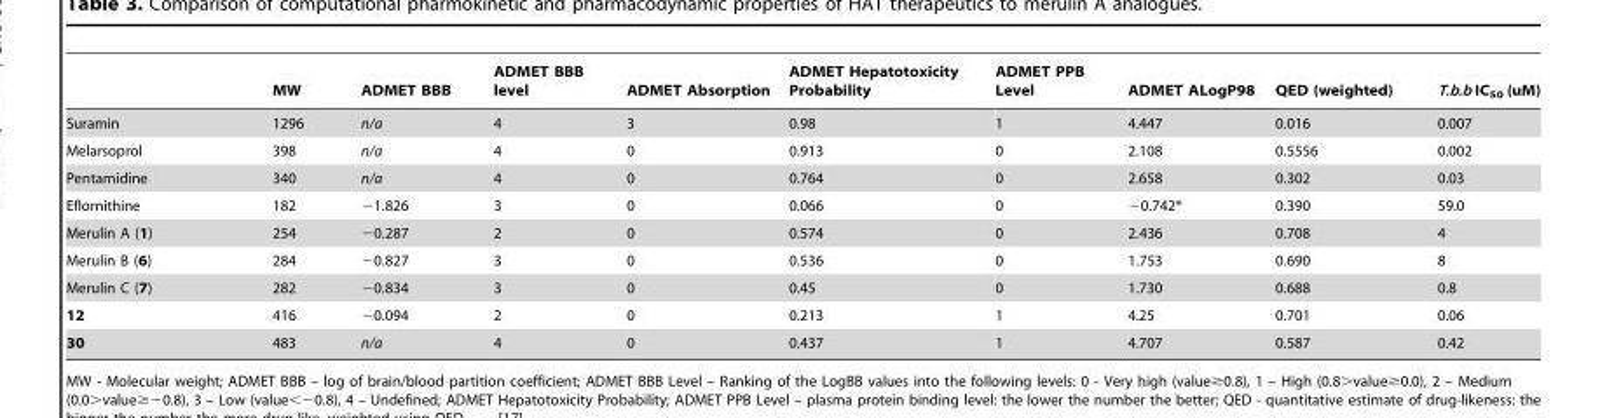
<table><thead><tr><td></td><td>MW</td><td>ADMET BBB</td><td>ADMET BBB level</td><td>ADMET Absorption</td><td>ADMET Hepatotoxicity Probability</td><td>ADMET PPB Level</td><td>ADMET ALogP98</td><td>QED (weighted)</td><td>T.b.b IC<sub>50</sub> (uM)</td></tr></thead><tbody><tr><td>Suramin</td><td>1296</td><td>n/a</td><td>4</td><td>3</td><td>0.98</td><td>1</td><td>4.447</td><td>0.016</td><td>0.007</td></tr><tr><td>Melarsoprol</td><td>398</td><td>n/a</td><td>4</td><td>0</td><td>0.913</td><td>0</td><td>2.108</td><td>0.5556</td><td>0.002</td></tr><tr><td>Pentamidine</td><td>340</td><td>n/a</td><td>4</td><td>0</td><td>0.764</td><td>0</td><td>2.658</td><td>0.302</td><td>0.03</td></tr><tr><td>Eflornithine</td><td>182</td><td>−1.826</td><td>3</td><td>0</td><td>0.066</td><td>0</td><td>−0.742*</td><td>0.390</td><td>59.0</td></tr><tr><td>Merulin A (1)</td><td>254</td><td>−0.287</td><td>2</td><td>0</td><td>0.574</td><td>0</td><td>2.436</td><td>0.708</td><td>4</td></tr><tr><td>Merulin B (6)</td><td>284</td><td>−0.827</td><td>3</td><td>0</td><td>0.536</td><td>0</td><td>1.753</td><td>0.690</td><td>8</td></tr><tr><td>Merulin C (7)</td><td>282</td><td>−0.834</td><td>3</td><td>0</td><td>0.45</td><td>0</td><td>1.730</td><td>0.688</td><td>0.8</td></tr><tr><td>12</td><td>416</td><td>−0.094</td><td>2</td><td>0</td><td>0.213</td><td>1</td><td>4.25</td><td>0.701</td><td>0.06</td></tr><tr><td>30</td><td>483</td><td>n/a</td><td>4</td><td>0</td><td>0.437</td><td>1</td><td>4.707</td><td>0.587</td><td>0.42</td></tr></tbody></table>